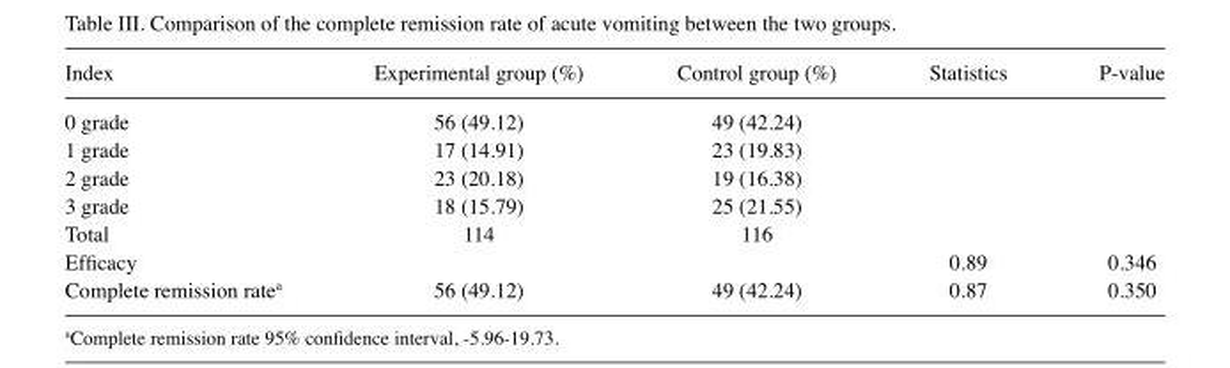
<table><thead><tr><td>Index</td><td>Experimental group (%)</td><td>Control group (%)</td><td>Statistics</td><td>P-value</td></tr></thead><tbody><tr><td>0 grade</td><td>56 (49.12)</td><td>49 (42.24)</td><td></td><td></td></tr><tr><td>1 grade</td><td>17 (14.91)</td><td>23 (19.83)</td><td></td><td></td></tr><tr><td>2 grade</td><td>23 (20.18)</td><td>19 (16.38)</td><td></td><td></td></tr><tr><td>3 grade</td><td>18 (15.79)</td><td>25 (21.55)</td><td></td><td></td></tr><tr><td>Total</td><td>114</td><td>116</td><td></td><td></td></tr><tr><td>Efficacy</td><td></td><td></td><td>0.89</td><td>0.346</td></tr><tr><td>Complete remission rate<sup>a</sup></td><td>56 (49.12)</td><td>49 (42.24)</td><td>0.87</td><td>0.350</td></tr></tbody></table>